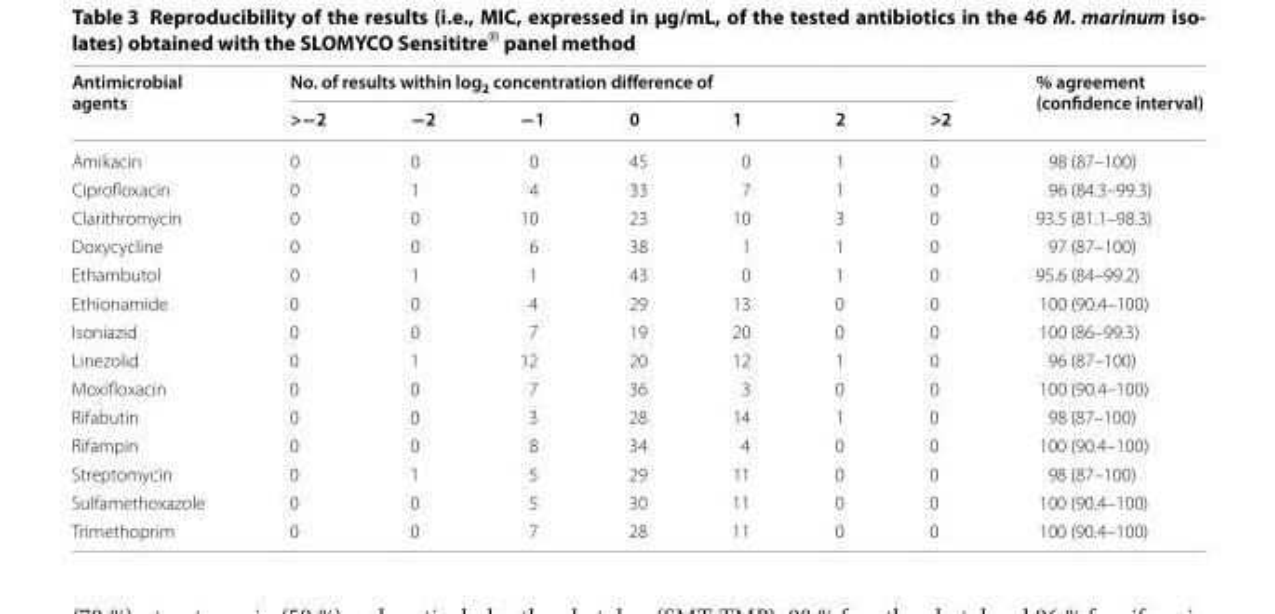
<table><thead><tr><td rowspan="2">Antimicrobial agents</td><td colspan="7">No. of results within log<sub>2</sub> concentration difference of</td><td rowspan="2">% agreement (confidence interval)</td></tr><tr><td>&gt;−2</td><td>−2</td><td>−1</td><td>0</td><td>1</td><td>2</td><td>&gt;2</td></tr></thead><tbody><tr><td>Amikacin</td><td>0</td><td>0</td><td>0</td><td>45</td><td>0</td><td>1</td><td>0</td><td>98 (87–100)</td></tr><tr><td>Ciprofloxacin</td><td>0</td><td>1</td><td>4</td><td>33</td><td>7</td><td>1</td><td>0</td><td>96 (84.3–99.3)</td></tr><tr><td>Clarithromycin</td><td>0</td><td>0</td><td>10</td><td>23</td><td>10</td><td>3</td><td>0</td><td>93.5 (81.1–98.3)</td></tr><tr><td>Doxycycline</td><td>0</td><td>0</td><td>6</td><td>38</td><td>1</td><td>1</td><td>0</td><td>97 (87–100)</td></tr><tr><td>Ethambutol</td><td>0</td><td>1</td><td>1</td><td>43</td><td>0</td><td>1</td><td>0</td><td>95.6 (84–99.2)</td></tr><tr><td>Ethionamide</td><td>0</td><td>0</td><td>4</td><td>29</td><td>13</td><td>0</td><td>0</td><td>100 (90.4–100)</td></tr><tr><td>Isoniazid</td><td>0</td><td>0</td><td>7</td><td>19</td><td>20</td><td>0</td><td>0</td><td>100 (86–99.3)</td></tr><tr><td>Linezolid</td><td>0</td><td>1</td><td>12</td><td>20</td><td>12</td><td>1</td><td>0</td><td>96 (87–100)</td></tr><tr><td>Moxifloxacin</td><td>0</td><td>0</td><td>7</td><td>36</td><td>3</td><td>0</td><td>0</td><td>100 (90.4–100)</td></tr><tr><td>Rifabutin</td><td>0</td><td>0</td><td>3</td><td>28</td><td>14</td><td>1</td><td>0</td><td>98 (87–100)</td></tr><tr><td>Rifampin</td><td>0</td><td>0</td><td>8</td><td>34</td><td>4</td><td>0</td><td>0</td><td>100 (90.4–100)</td></tr><tr><td>Streptomycin</td><td>0</td><td>1</td><td>5</td><td>29</td><td>11</td><td>0</td><td>0</td><td>98 (87–100)</td></tr><tr><td>Sulfamethoxazole</td><td>0</td><td>0</td><td>5</td><td>30</td><td>11</td><td>0</td><td>0</td><td>100 (90.4–100)</td></tr><tr><td>Trimethoprim</td><td>0</td><td>0</td><td>7</td><td>28</td><td>11</td><td>0</td><td>0</td><td>100 (90.4–100)</td></tr></tbody></table>